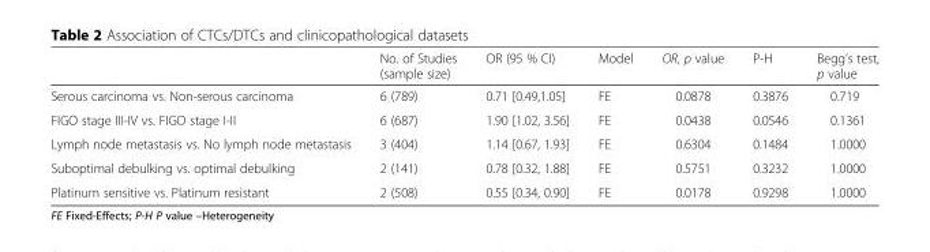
<table><thead><tr><td></td><td>No. of Studies (sample size)</td><td>OR (95 % CI)</td><td>Model</td><td>OR, p value</td><td>P-H</td><td>Begg’s test, p value</td></tr></thead><tbody><tr><td>Serous carcinoma vs. Non-serous carcinoma</td><td>6 (789)</td><td>0.71 [0.49,1.05]</td><td>FE</td><td>0.0878</td><td>0.3876</td><td>0.719</td></tr><tr><td>FIGO stage III-IV vs. FIGO stage I-II</td><td>6 (687)</td><td>1.90 [1.02, 3.56]</td><td>FE</td><td>0.0438</td><td>0.0546</td><td>0.1361</td></tr><tr><td>Lymph node metastasis vs. No lymph node metastasis</td><td>3 (404)</td><td>1.14 [0.67, 1.93]</td><td>FE</td><td>0.6304</td><td>0.1484</td><td>1.0000</td></tr><tr><td>Suboptimal debulking vs. optimal debulking</td><td>2 (141)</td><td>0.78 [0.32, 1.88]</td><td>FE</td><td>0.5751</td><td>0.3232</td><td>1.0000</td></tr><tr><td>Platinum sensitive vs. Platinum resistant</td><td>2 (508)</td><td>0.55 [0.34, 0.90]</td><td>FE</td><td>0.0178</td><td>0.9298</td><td>1.0000</td></tr></tbody></table>